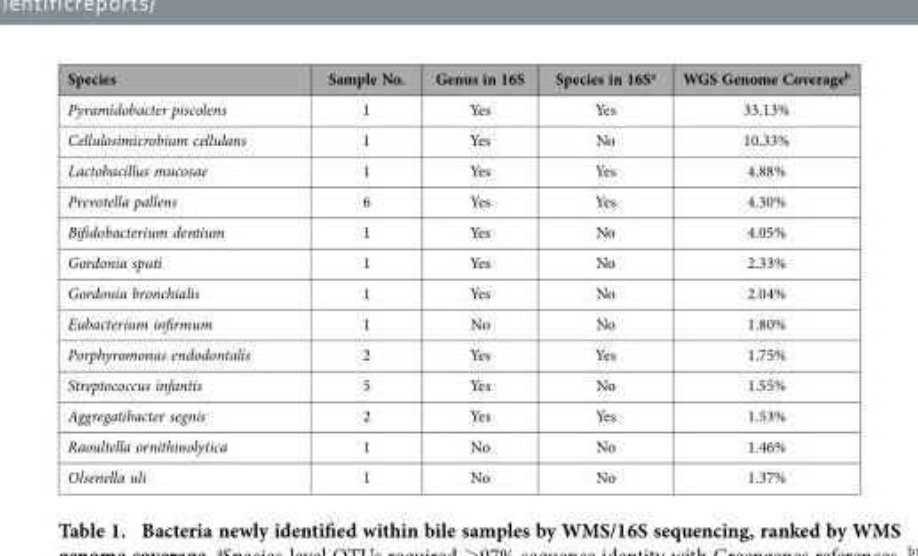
<table><thead><tr><td>Species</td><td>Sample No.</td><td>Genus in 16S</td><td>Species in 16S<sup>a</sup></td><td>WGS Genome Coverage<sup>b</sup></td></tr></thead><tbody><tr><td>Pyramidobacter piscolens</td><td>1</td><td>Yes</td><td>Yes</td><td>33.13%</td></tr><tr><td>Cellulosimicrobium cellulans</td><td>1</td><td>Yes</td><td>No</td><td>10.33%</td></tr><tr><td>Lactobacillus mucosae</td><td>1</td><td>Yes</td><td>Yes</td><td>4.88%</td></tr><tr><td>Prevotella pallens</td><td>6</td><td>Yes</td><td>Yes</td><td>4.30%</td></tr><tr><td>Bifidobacterium dentium</td><td>1</td><td>Yes</td><td>No</td><td>4.05%</td></tr><tr><td>Gordonia sputi</td><td>1</td><td>Yes</td><td>No</td><td>2.33%</td></tr><tr><td>Gordonia bronchialis</td><td>1</td><td>Yes</td><td>No</td><td>2.04%</td></tr><tr><td>Eubacterium infirmum</td><td>1</td><td>No</td><td>No</td><td>1.80%</td></tr><tr><td>Porphyromonas endodontalis</td><td>2</td><td>Yes</td><td>Yes</td><td>1.75%</td></tr><tr><td>Streptococcus infantis</td><td>5</td><td>Yes</td><td>No</td><td>1.55%</td></tr><tr><td>Aggregatibacter segnis</td><td>2</td><td>Yes</td><td>Yes</td><td>1.53%</td></tr><tr><td>Raoultella ornithinolytica</td><td>1</td><td>No</td><td>No</td><td>1.46%</td></tr><tr><td>Olsenella uli</td><td>1</td><td>No</td><td>No</td><td>1.37%</td></tr></tbody></table>